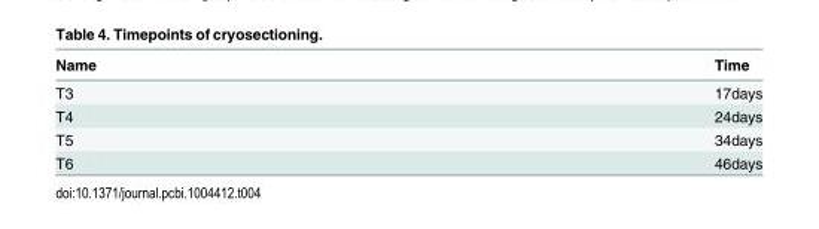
<table><thead><tr><td>Name</td><td>Time</td></tr></thead><tbody><tr><td>T3</td><td>17days</td></tr><tr><td>T4</td><td>24days</td></tr><tr><td>T5</td><td>34days</td></tr><tr><td>T6</td><td>46days</td></tr></tbody></table>